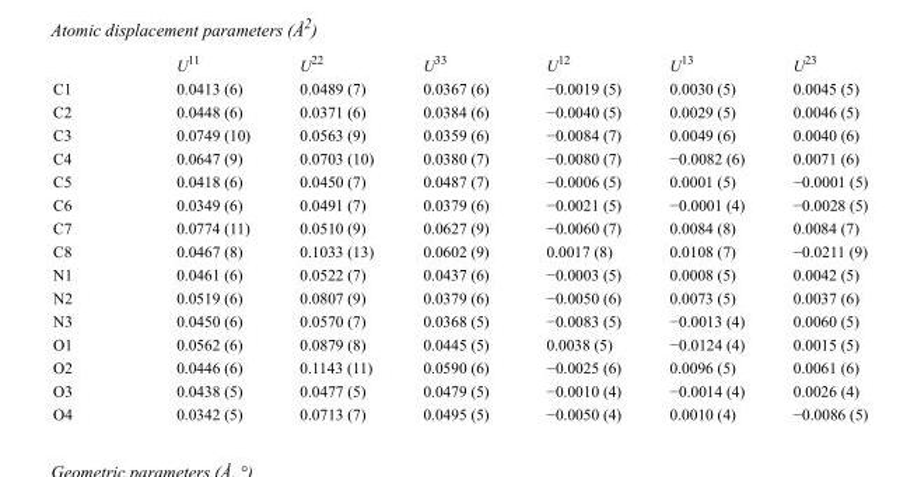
<table><thead><tr><td></td><td>U<sup>11</sup></td><td>U<sup>22</sup></td><td>U<sup>33</sup></td><td>U<sup>12</sup></td><td>U<sup>13</sup></td><td>U<sup>23</sup></td></tr></thead><tbody><tr><td>C1</td><td>0.0413 (6)</td><td>0.0489 (7)</td><td>0.0367 (6)</td><td>−0.0019 (5)</td><td>0.0030 (5)</td><td>0.0045 (5)</td></tr><tr><td>C2</td><td>0.0448 (6)</td><td>0.0371 (6)</td><td>0.0384 (6)</td><td>−0.0040 (5)</td><td>0.0029 (5)</td><td>0.0046 (5)</td></tr><tr><td>C3</td><td>0.0749 (10)</td><td>0.0563 (9)</td><td>0.0359 (6)</td><td>−0.0084 (7)</td><td>0.0049 (6)</td><td>0.0040 (6)</td></tr><tr><td>C4</td><td>0.0647 (9)</td><td>0.0703 (10)</td><td>0.0380 (7)</td><td>−0.0080 (7)</td><td>−0.0082 (6)</td><td>0.0071 (6)</td></tr><tr><td>C5</td><td>0.0418 (6)</td><td>0.0450 (7)</td><td>0.0487 (7)</td><td>−0.0006 (5)</td><td>0.0001 (5)</td><td>−0.0001 (5)</td></tr><tr><td>C6</td><td>0.0349 (6)</td><td>0.0491 (7)</td><td>0.0379 (6)</td><td>−0.0021 (5)</td><td>−0.0001 (4)</td><td>−0.0028 (5)</td></tr><tr><td>C7</td><td>0.0774 (11)</td><td>0.0510 (9)</td><td>0.0627 (9)</td><td>−0.0060 (7)</td><td>0.0084 (8)</td><td>0.0084 (7)</td></tr><tr><td>C8</td><td>0.0467 (8)</td><td>0.1033 (13)</td><td>0.0602 (9)</td><td>0.0017 (8)</td><td>0.0108 (7)</td><td>−0.0211 (9)</td></tr><tr><td>N1</td><td>0.0461 (6)</td><td>0.0522 (7)</td><td>0.0437 (6)</td><td>−0.0003 (5)</td><td>0.0008 (5)</td><td>0.0042 (5)</td></tr><tr><td>N2</td><td>0.0519 (6)</td><td>0.0807 (9)</td><td>0.0379 (6)</td><td>−0.0050 (6)</td><td>0.0073 (5)</td><td>0.0037 (6)</td></tr><tr><td>N3</td><td>0.0450 (6)</td><td>0.0570 (7)</td><td>0.0368 (5)</td><td>−0.0083 (5)</td><td>−0.0013 (4)</td><td>0.0060 (5)</td></tr><tr><td>O1</td><td>0.0562 (6)</td><td>0.0879 (8)</td><td>0.0445 (5)</td><td>0.0038 (5)</td><td>−0.0124 (4)</td><td>0.0015 (5)</td></tr><tr><td>O2</td><td>0.0446 (6)</td><td>0.1143 (11)</td><td>0.0590 (6)</td><td>−0.0025 (6)</td><td>0.0096 (5)</td><td>0.0061 (6)</td></tr><tr><td>O3</td><td>0.0438 (5)</td><td>0.0477 (5)</td><td>0.0479 (5)</td><td>−0.0010 (4)</td><td>−0.0014 (4)</td><td>0.0026 (4)</td></tr><tr><td>O4</td><td>0.0342 (5)</td><td>0.0713 (7)</td><td>0.0495 (5)</td><td>−0.0050 (4)</td><td>0.0010 (4)</td><td>−0.0086 (5)</td></tr></tbody></table>